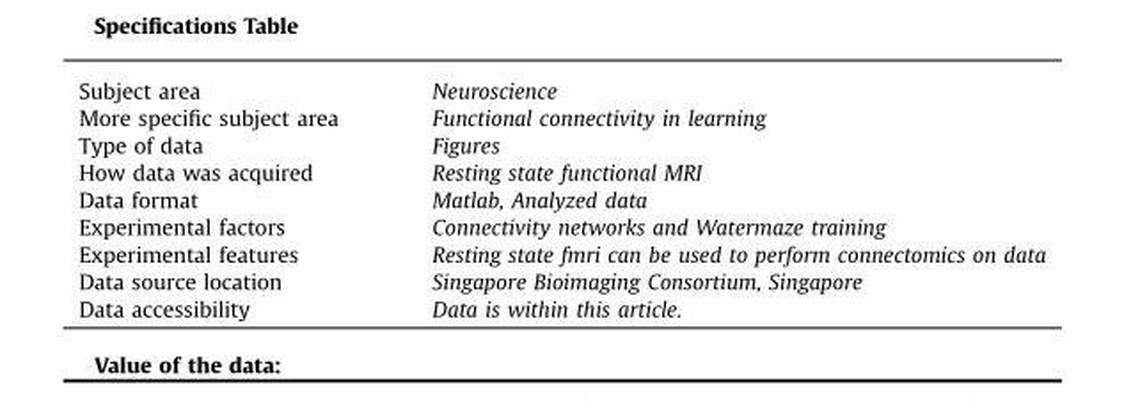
<table><tbody><tr><td>Subject area</td><td>Neuroscience</td></tr><tr><td>More specific subject area</td><td>Functional connectivity in learning</td></tr><tr><td>Type of data</td><td>Figures</td></tr><tr><td>How data was acquired</td><td>Resting state functional MRI</td></tr><tr><td>Data format</td><td>Matlab, Analyzed data</td></tr><tr><td>Experimental factors</td><td>Connectivity networks and Watermaze training</td></tr><tr><td>Experimental features</td><td>Resting state fmri can be used to perform connectomics on data</td></tr><tr><td>Data source location</td><td>Singapore Bioimaging Consortium, Singapore</td></tr><tr><td>Data accessibility</td><td>Data is within this article.</td></tr></tbody></table>